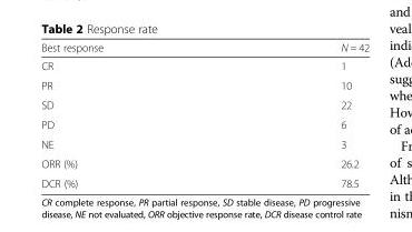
<table><thead><tr><td>Best response</td><td>N = 42</td></tr></thead><tbody><tr><td>CR</td><td>1</td></tr><tr><td>PR</td><td>10</td></tr><tr><td>SD</td><td>22</td></tr><tr><td>PD</td><td>6</td></tr><tr><td>NE</td><td>3</td></tr><tr><td>ORR (%)</td><td>26.2</td></tr><tr><td>DCR (%)</td><td>78.5</td></tr></tbody></table>